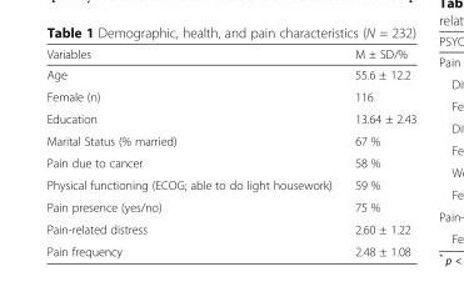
<table><thead><tr><td>Variables</td><td>M ± SD/%</td></tr></thead><tbody><tr><td>Age</td><td>55.6 ± 12.2</td></tr><tr><td>Female (n)</td><td>116</td></tr><tr><td>Education</td><td>13.64 ± 2.43</td></tr><tr><td>Marital Status (% married)</td><td>67 %</td></tr><tr><td>Pain due to cancer</td><td>58 %</td></tr><tr><td>Physical functioning (ECOG; able to do light housework)</td><td>59 %</td></tr><tr><td>Pain presence (yes/no)</td><td>75 %</td></tr><tr><td>Pain-related distress</td><td>2.60 ± 1.22</td></tr><tr><td>Pain frequency</td><td>2.48 ± 1.08</td></tr></tbody></table>